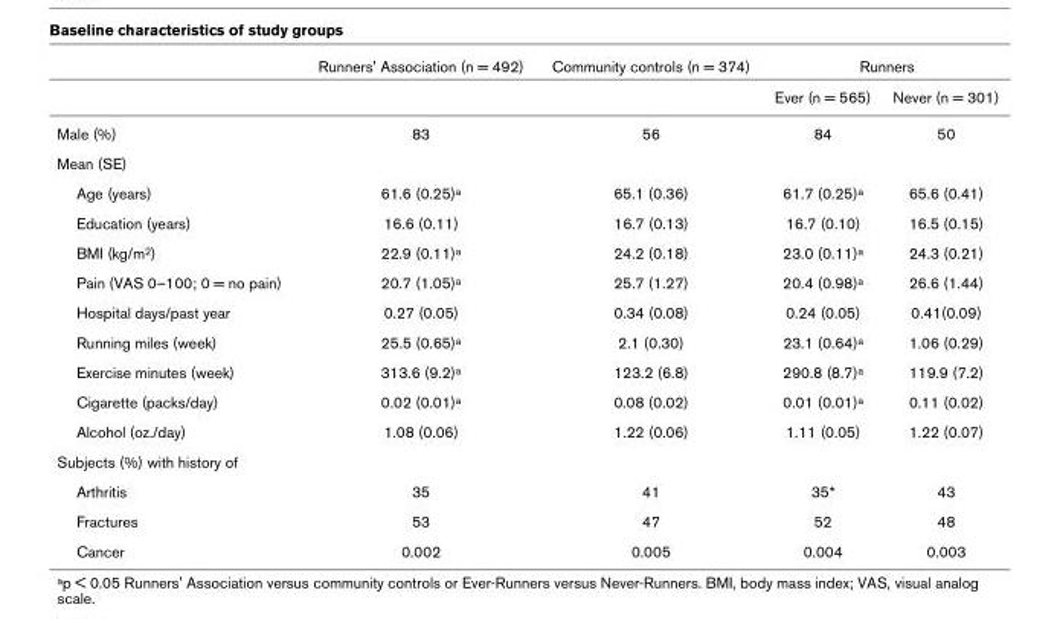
<table><thead><tr><td rowspan="2"></td><td rowspan="2">Runners&#x27; Association (n = 492)</td><td rowspan="2">Community controls (n = 374)</td><td colspan="2">Runners</td></tr><tr><td>Ever (n = 565)</td><td>Never (n = 301)</td></tr></thead><tbody><tr><td>Male (%)</td><td>83</td><td>56</td><td>84</td><td>50</td></tr><tr><td colspan="5">Mean (SE)</td></tr><tr><td>Age (years)</td><td>61.6 (0.25)a</td><td>65.1 (0.36)</td><td>61.7 (0.25)a</td><td>65.6 (0.41)</td></tr><tr><td>Education (years)</td><td>16.6 (0.11)</td><td>16.7 (0.13)</td><td>16.7 (0.10)</td><td>16.5 (0.15)</td></tr><tr><td>BMI (kg/m2)</td><td>22.9 (0.11)a</td><td>24.2 (0.18)</td><td>23.0 (0.11)a</td><td>24.3 (0.21)</td></tr><tr><td>Pain (VAS 0–100; 0 = no pain)</td><td>20.7 (1.05)a</td><td>25.7 (1.27)</td><td>20.4 (0.98)a</td><td>26.6 (1.44)</td></tr><tr><td>Hospital days/past year</td><td>0.27 (0.05)</td><td>0.34 (0.08)</td><td>0.24 (0.05)</td><td>0.41(0.09)</td></tr><tr><td>Running miles (week)</td><td>25.5 (0.65)a</td><td>2.1 (0.30)</td><td>23.1 (0.64)a</td><td>1.06 (0.29)</td></tr><tr><td>Exercise minutes (week)</td><td>313.6 (9.2)a</td><td>123.2 (6.8)</td><td>290.8 (8.7)a</td><td>119.9 (7.2)</td></tr><tr><td>Cigarette (packs/day)</td><td>0.02 (0.01)a</td><td>0.08 (0.02)</td><td>0.01 (0.01)a</td><td>0.11 (0.02)</td></tr><tr><td>Alcohol (oz./day)</td><td>1.08 (0.06)</td><td>1.22 (0.06)</td><td>1.11 (0.05)</td><td>1.22 (0.07)</td></tr><tr><td colspan="5">Subjects (%) with history of</td></tr><tr><td>Arthritis</td><td>35</td><td>41</td><td>35*</td><td>43</td></tr><tr><td>Fractures</td><td>53</td><td>47</td><td>52</td><td>48</td></tr><tr><td>Cancer</td><td>0.002</td><td>0.005</td><td>0.004</td><td>0.003</td></tr></tbody></table>